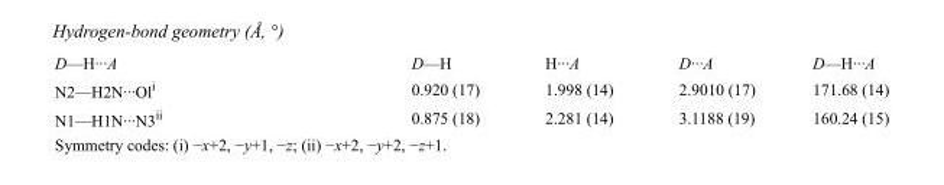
<table><tbody><tr><td>D—H···A</td><td>D—H</td><td>H···A</td><td>D···A</td><td>D—H···A</td></tr><tr><td>N2—H2N···Ol<sup>i</sup></td><td>0.920 (17)</td><td>1.998 (14)</td><td>2.9010 (17)</td><td>171.68 (14)</td></tr><tr><td>N1—H1N···N3<sup>ii</sup></td><td>0.875 (18)</td><td>2.281 (14)</td><td>3.1188 (19)</td><td>160.24 (15)</td></tr></tbody></table>